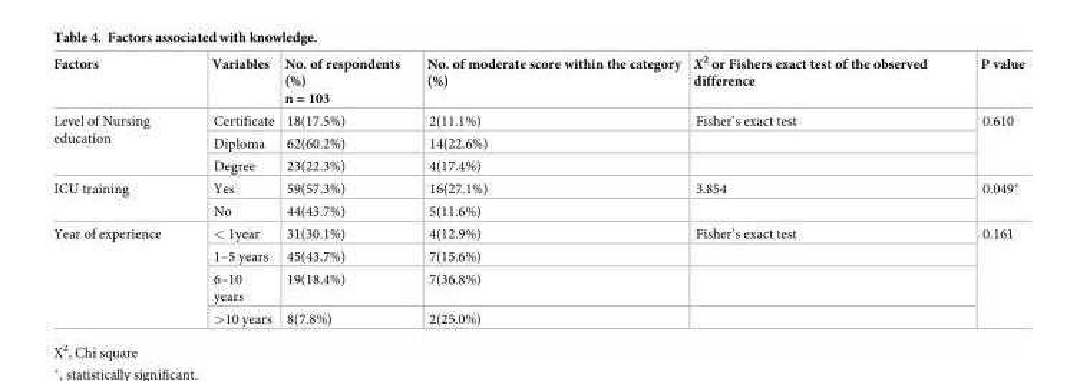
<table><thead><tr><td>Factors</td><td>Variables</td><td>No. of respondents (%) n = 103</td><td>No. of moderate score within the category (%)</td><td>X<sup>2</sup> or Fishers exact test of the observed difference</td><td>P value</td></tr></thead><tbody><tr><td rowspan="3">Level of Nursing education</td><td>Certificate</td><td>18(17.5%)</td><td>2(11.1%)</td><td>Fisher’s exact test</td><td rowspan="3">0.610</td></tr><tr><td>Diploma</td><td>62(60.2%)</td><td>14(22.6%)</td><td></td></tr><tr><td>Degree</td><td>23(22.3%)</td><td>4(17.4%)</td><td></td></tr><tr><td rowspan="2">ICU training</td><td>Yes</td><td>59(57.3%)</td><td>16(27.1%)</td><td>3.854</td><td rowspan="2">0.049*</td></tr><tr><td>No</td><td>44(43.7%)</td><td>5(11.6%)</td><td></td></tr><tr><td rowspan="4">Year of experience</td><td>&lt; 1year</td><td>31(30.1%)</td><td>4(12.9%)</td><td>Fisher’s exact test</td><td rowspan="4">0.161</td></tr><tr><td>1–5 years</td><td>45(43.7%)</td><td>7(15.6%)</td><td></td></tr><tr><td>6–10 years</td><td>19(18.4%)</td><td>7(36.8%)</td><td></td></tr><tr><td>&gt;10 years</td><td>8(7.8%)</td><td>2(25.0%)</td><td></td></tr></tbody></table>